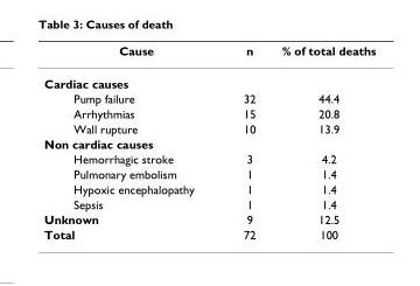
<table><thead><tr><td>Cause</td><td>n</td><td>% of total deaths</td></tr></thead><tbody><tr><td colspan="3">Cardiac causes</td></tr><tr><td>Pump failure</td><td>32</td><td>44.4</td></tr><tr><td>Arrhythmias</td><td>15</td><td>20.8</td></tr><tr><td>Wall rupture</td><td>10</td><td>13.9</td></tr><tr><td colspan="3">Non cardiac causes</td></tr><tr><td>Hemorrhagic stroke</td><td>3</td><td>4.2</td></tr><tr><td>Pulmonary embolism</td><td>1</td><td>1.4</td></tr><tr><td>Hypoxic encephalopathy</td><td>1</td><td>1.4</td></tr><tr><td>Sepsis</td><td>1</td><td>1.4</td></tr><tr><td>Unknown</td><td>9</td><td>12.5</td></tr><tr><td>Total</td><td>72</td><td>100</td></tr></tbody></table>